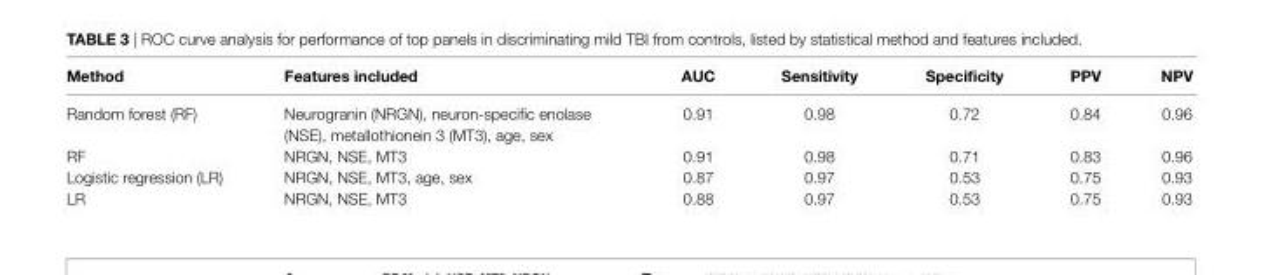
<table><thead><tr><td>Method</td><td>Features included</td><td>aUc</td><td>sensitivity</td><td>specificity</td><td>PPV</td><td>nPV</td></tr></thead><tbody><tr><td>Random forest (RF)</td><td>Neurogranin (NRGN), neuron-specific enolase (NSE), metallothionein 3 (MT3), age, sex</td><td>0.91</td><td>0.98</td><td>0.72</td><td>0.84</td><td>0.96</td></tr><tr><td>RF</td><td>NRGN, NSE, MT3</td><td>0.91</td><td>0.98</td><td>0.71</td><td>0.83</td><td>0.96</td></tr><tr><td>Logistic regression (LR)</td><td>NRGN, NSE, MT3, age, sex</td><td>0.87</td><td>0.97</td><td>0.53</td><td>0.75</td><td>0.93</td></tr><tr><td>LR</td><td>NRGN, NSE, MT3</td><td>0.88</td><td>0.97</td><td>0.53</td><td>0.75</td><td>0.93</td></tr></tbody></table>